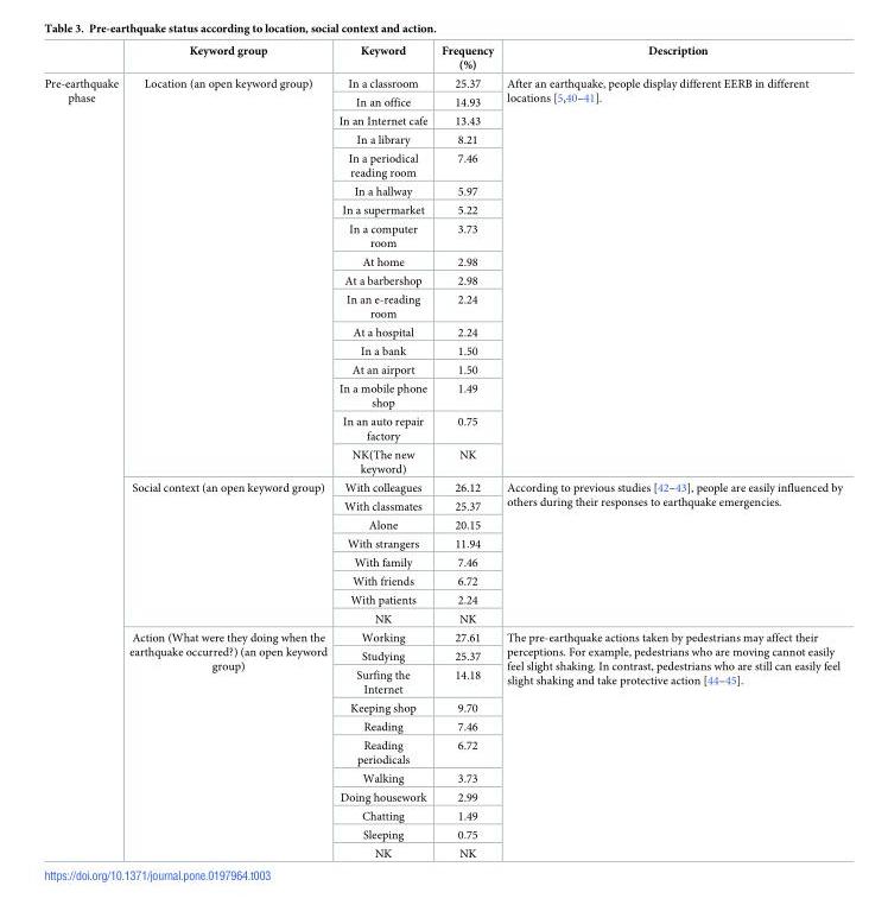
<table><thead><tr><td></td><td>Keyword group</td><td>Keyword</td><td>Frequency (%)</td><td>Description</td></tr></thead><tbody><tr><td rowspan="36">Pre-earthquake phase</td><td rowspan="17">Location (an open keyword group)</td><td>In a classroom</td><td>25.37</td><td rowspan="17">After an earthquake, people display different EERB in different locations [5,40–41].</td></tr><tr><td>In an office</td><td>14.93</td></tr><tr><td>In an Internet cafe</td><td>13.43</td></tr><tr><td>In a library</td><td>8.21</td></tr><tr><td>In a periodical reading room</td><td>7.46</td></tr><tr><td>In a hallway</td><td>5.97</td></tr><tr><td>In a supermarket</td><td>5.22</td></tr><tr><td>In a computer room</td><td>3.73</td></tr><tr><td>At home</td><td>2.98</td></tr><tr><td>At a barbershop</td><td>2.98</td></tr><tr><td>In an e-reading room</td><td>2.24</td></tr><tr><td>At a hospital</td><td>2.24</td></tr><tr><td>In a bank</td><td>1.50</td></tr><tr><td>At an airport</td><td>1.50</td></tr><tr><td>In a mobile phone shop</td><td>1.49</td></tr><tr><td>In an auto repair factory</td><td>0.75</td></tr><tr><td>NK(The new keyword)</td><td>NK</td></tr><tr><td rowspan="8">Social context (an open keyword group)</td><td>With colleagues</td><td>26.12</td><td rowspan="8">According to previous studies [42–43], people are easily influenced by others during their responses to earthquake emergencies.</td></tr><tr><td>With classmates</td><td>25.37</td></tr><tr><td>Alone</td><td>20.15</td></tr><tr><td>With strangers</td><td>11.94</td></tr><tr><td>With family</td><td>7.46</td></tr><tr><td>With friends</td><td>6.72</td></tr><tr><td>With patients</td><td>2.24</td></tr><tr><td>NK</td><td>NK</td></tr><tr><td rowspan="11">Action (What were they doing when the earthquake occurred?) (an open keyword group)</td><td>Working</td><td>27.61</td><td rowspan="11">The pre-earthquake actions taken by pedestrians may affect their perceptions. For example, pedestrians who are moving cannot easily feel slight shaking. In contrast, pedestrians who are still can easily feel slight shaking and take protective action [44–45].</td></tr><tr><td>Studying</td><td>25.37</td></tr><tr><td>Surfing the Internet</td><td>14.18</td></tr><tr><td>Keeping shop</td><td>9.70</td></tr><tr><td>Reading</td><td>7.46</td></tr><tr><td>Reading periodicals</td><td>6.72</td></tr><tr><td>Walking</td><td>3.73</td></tr><tr><td>Doing housework</td><td>2.99</td></tr><tr><td>Chatting</td><td>1.49</td></tr><tr><td>Sleeping</td><td>0.75</td></tr><tr><td>NK</td><td>NK</td></tr></tbody></table>